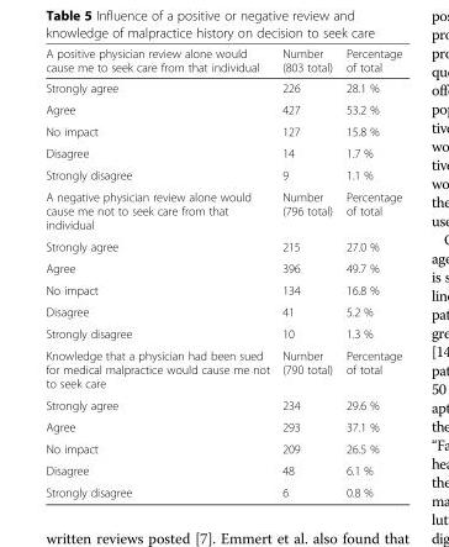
<table><thead><tr><td>A positive physician review alone would cause me to seek care from that individual</td><td>Number (803 total)</td><td>Percentage of total</td></tr></thead><tbody><tr><td>Strongly agree</td><td>226</td><td>28.1 %</td></tr><tr><td>Agree</td><td>427</td><td>53.2 %</td></tr><tr><td>No impact</td><td>127</td><td>15.8 %</td></tr><tr><td>Disagree</td><td>14</td><td>1.7 %</td></tr><tr><td>Strongly disagree</td><td>9</td><td>1.1 %</td></tr><tr><td>A negative physician review alone would cause me not to seek care from that individual</td><td>Number (796 total)</td><td>Percentage of total</td></tr><tr><td>Strongly agree</td><td>215</td><td>27.0 %</td></tr><tr><td>Agree</td><td>396</td><td>49.7 %</td></tr><tr><td>No impact</td><td>134</td><td>16.8 %</td></tr><tr><td>Disagree</td><td>41</td><td>5.2 %</td></tr><tr><td>Strongly disagree</td><td>10</td><td>1.3 %</td></tr><tr><td>Knowledge that a physician had been sued for medical malpractice would cause me not to seek care</td><td>Number (790 total)</td><td>Percentage of total</td></tr><tr><td>Strongly agree</td><td>234</td><td>29.6 %</td></tr><tr><td>Agree</td><td>293</td><td>37.1 %</td></tr><tr><td>No impact</td><td>209</td><td>26.5 %</td></tr><tr><td>Disagree</td><td>48</td><td>6.1 %</td></tr><tr><td>Strongly disagree</td><td>6</td><td>0.8 %</td></tr></tbody></table>